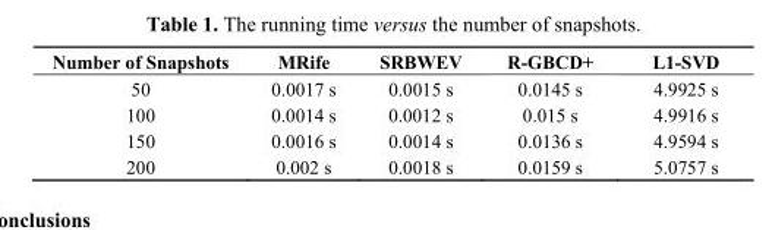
<table><thead><tr><td>Number of Snapshots</td><td>MRife</td><td>SRBWEV</td><td>R-GBCD+</td><td>L1-SVD</td></tr></thead><tbody><tr><td>50</td><td>0.0017 s</td><td>0.0015 s</td><td>0.0145 s</td><td>4.9925 s</td></tr><tr><td>100</td><td>0.0014 s</td><td>0.0012 s</td><td>0.015 s</td><td>4.9916 s</td></tr><tr><td>150</td><td>0.0016 s</td><td>0.0014 s</td><td>0.0136 s</td><td>4.9594 s</td></tr><tr><td>200</td><td>0.002 s</td><td>0.0018 s</td><td>0.0159 s</td><td>5.0757 s</td></tr></tbody></table>